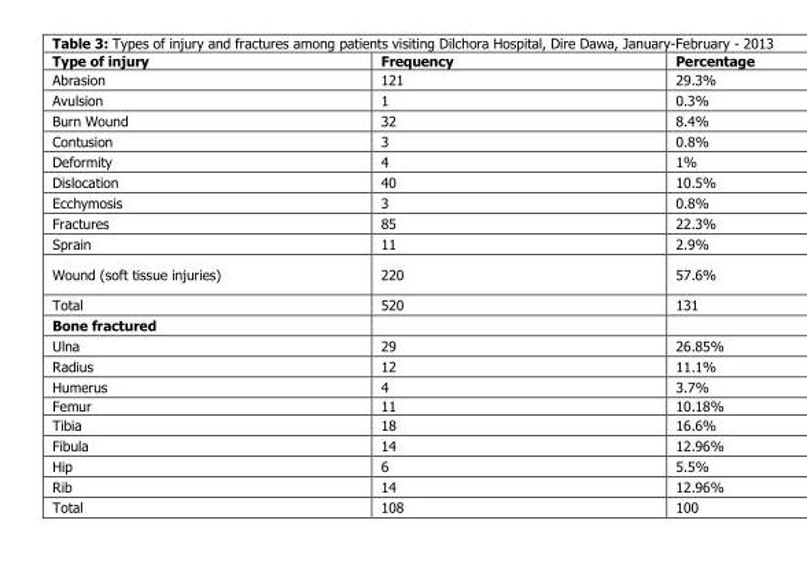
<table><thead><tr><td>Type of injury</td><td>Frequency</td><td>Percentage</td></tr></thead><tbody><tr><td>Abrasion</td><td>121</td><td>29.3%</td></tr><tr><td>Avulsion</td><td>1</td><td>0.3%</td></tr><tr><td>Burn Wound</td><td>32</td><td>8.4%</td></tr><tr><td>Contusion</td><td>3</td><td>0.8%</td></tr><tr><td>Deformity</td><td>4</td><td>1%</td></tr><tr><td>Dislocation</td><td>40</td><td>10.5%</td></tr><tr><td>Ecchymosis</td><td>3</td><td>0.8%</td></tr><tr><td>Fractures</td><td>85</td><td>22.3%</td></tr><tr><td>Sprain</td><td>11</td><td>2.9%</td></tr><tr><td>Wound (soft tissue injuries)</td><td>220</td><td>57.6%</td></tr><tr><td>Total</td><td>520</td><td>131</td></tr><tr><td colspan="3">Bone fractured</td></tr><tr><td>Ulna</td><td>29</td><td>26.85%</td></tr><tr><td>Radius</td><td>12</td><td>11.1%</td></tr><tr><td>Humerus</td><td>4</td><td>3.7%</td></tr><tr><td>Femur</td><td>11</td><td>10.18%</td></tr><tr><td>Tibia</td><td>18</td><td>16.6%</td></tr><tr><td>Fibula</td><td>14</td><td>12.96%</td></tr><tr><td>Hip</td><td>6</td><td>5.5%</td></tr><tr><td>Rib</td><td>14</td><td>12.96%</td></tr><tr><td>Total</td><td>108</td><td>100</td></tr></tbody></table>